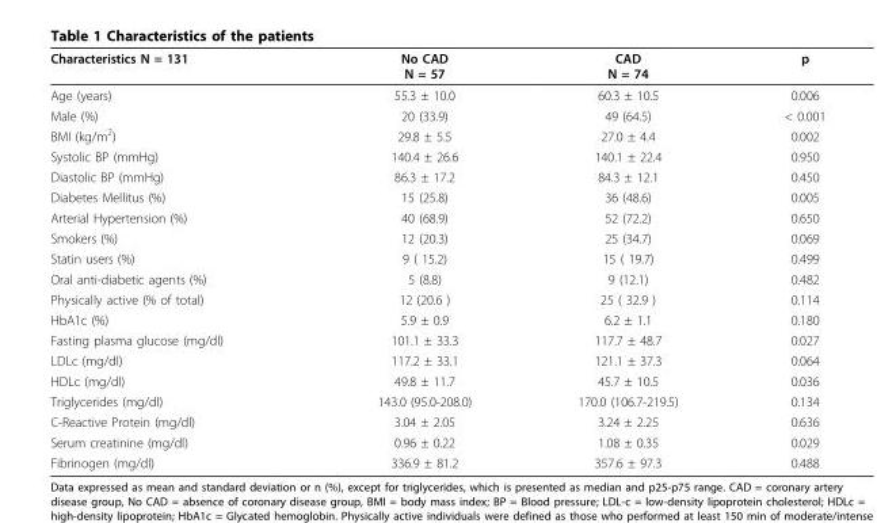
<table><thead><tr><td>Characteristics N = 131</td><td>No CAD N = 57</td><td>CAD N = 74</td><td>p</td></tr></thead><tbody><tr><td>Age (years)</td><td>55.3 ± 10.0</td><td>60.3 ± 10.5</td><td>0.006</td></tr><tr><td>Male (%)</td><td>20 (33.9)</td><td>49 (64.5)</td><td>&lt; 0.001</td></tr><tr><td>BMI (kg/m<sup>2</sup>)</td><td>29.8 ± 5.5</td><td>27.0 ± 4.4</td><td>0.002</td></tr><tr><td>Systolic BP (mmHg)</td><td>140.4 ± 26.6</td><td>140.1 ± 22.4</td><td>0.950</td></tr><tr><td>Diastolic BP (mmHg)</td><td>86.3 ± 17.2</td><td>84.3 ± 12.1</td><td>0.450</td></tr><tr><td>Diabetes Mellitus (%)</td><td>15 (25.8)</td><td>36 (48.6)</td><td>0.005</td></tr><tr><td>Arterial Hypertension (%)</td><td>40 (68.9)</td><td>52 (72.2)</td><td>0.650</td></tr><tr><td>Smokers (%)</td><td>12 (20.3)</td><td>25 (34.7)</td><td>0.069</td></tr><tr><td>Statin users (%)</td><td>9 ( 15.2)</td><td>15 ( 19.7)</td><td>0.499</td></tr><tr><td>Oral anti-diabetic agents (%)</td><td>5 (8.8)</td><td>9 (12.1)</td><td>0.482</td></tr><tr><td>Physically active (% of total)</td><td>12 (20.6 )</td><td>25 ( 32.9 )</td><td>0.114</td></tr><tr><td>HbA1c (%)</td><td>5.9 ± 0.9</td><td>6.2 ± 1.1</td><td>0.180</td></tr><tr><td>Fasting plasma glucose (mg/dl)</td><td>101.1 ± 33.3</td><td>117.7 ± 48.7</td><td>0.027</td></tr><tr><td>LDLc (mg/dl)</td><td>117.2 ± 33.1</td><td>121.1 ± 37.3</td><td>0.064</td></tr><tr><td>HDLc (mg/dl)</td><td>49.8 ± 11.7</td><td>45.7 ± 10.5</td><td>0.036</td></tr><tr><td>Triglycerides (mg/dl)</td><td>143.0 (95.0-208.0)</td><td>170.0 (106.7-219.5)</td><td>0.134</td></tr><tr><td>C-Reactive Protein (mg/dl)</td><td>3.04 ± 2.05</td><td>3.24 ± 2.25</td><td>0.636</td></tr><tr><td>Serum creatinine (mg/dl)</td><td>0.96 ± 0.22</td><td>1.08 ± 0.35</td><td>0.029</td></tr><tr><td>Fibrinogen (mg/dl)</td><td>336.9 ± 81.2</td><td>357.6 ± 97.3</td><td>0.488</td></tr></tbody></table>